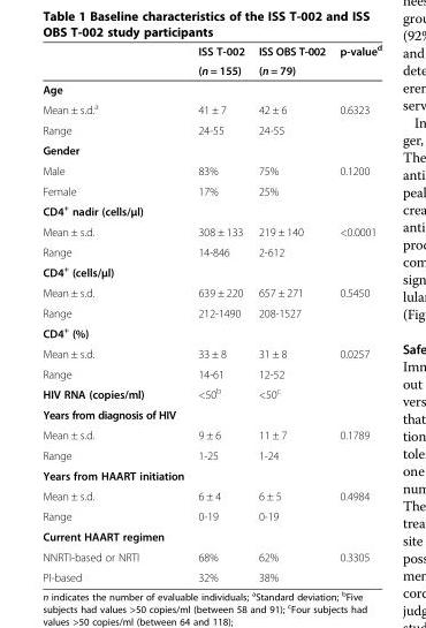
<table><thead><tr><td rowspan="2"></td><td rowspan="2">ISS T-002 (n = 155)</td><td rowspan="2">ISS OBS T-002 (n = 79)</td><td rowspan="2">p-value<sup>d</sup></td></tr><tr></tr></thead><tbody><tr><td colspan="4">Age</td></tr><tr><td>Mean ± s.d.<sup>a</sup></td><td>41 ± 7</td><td>42 ± 6</td><td>0.6323</td></tr><tr><td>Range</td><td>24-55</td><td>24-55</td><td></td></tr><tr><td colspan="4">Gender</td></tr><tr><td>Male</td><td>83%</td><td>75%</td><td>0.1200</td></tr><tr><td>Female</td><td>17%</td><td>25%</td><td></td></tr><tr><td colspan="4">CD4<sup>+</sup> nadir (cells/μl)</td></tr><tr><td>Mean ± s.d.</td><td>308 ± 133</td><td>219 ± 140</td><td>&lt;0.0001</td></tr><tr><td>Range</td><td>14-846</td><td>2-612</td><td></td></tr><tr><td colspan="4">CD4<sup>+</sup> (cells/μl)</td></tr><tr><td>Mean ± s.d.</td><td>639 ± 220</td><td>657 ± 271</td><td>0.5450</td></tr><tr><td>Range</td><td>212-1490</td><td>208-1527</td><td></td></tr><tr><td colspan="4">CD4<sup>+</sup> (%)</td></tr><tr><td>Mean ± s.d.</td><td>33 ± 8</td><td>31 ± 8</td><td>0.0257</td></tr><tr><td>Range</td><td>14-61</td><td>12-52</td><td></td></tr><tr><td>HIV RNA (copies/ml)</td><td>&lt;50<sup>b</sup></td><td>&lt;50<sup>c</sup></td><td></td></tr><tr><td colspan="4">Years from diagnosis of HIV</td></tr><tr><td>Mean ± s.d.</td><td>9 ± 6</td><td>11 ± 7</td><td>0.1789</td></tr><tr><td>Range</td><td>1-25</td><td>1-24</td><td></td></tr><tr><td colspan="4">Years from HAART initiation</td></tr><tr><td>Mean ± s.d.</td><td>6 ± 4</td><td>6 ± 5</td><td>0.4984</td></tr><tr><td>Range</td><td>0-19</td><td>0-19</td><td></td></tr><tr><td colspan="4">Current HAART regimen</td></tr><tr><td>NNRTI-based or NRTI</td><td>68%</td><td>62%</td><td>0.3305</td></tr><tr><td>PI-based</td><td>32%</td><td>38%</td><td></td></tr></tbody></table>